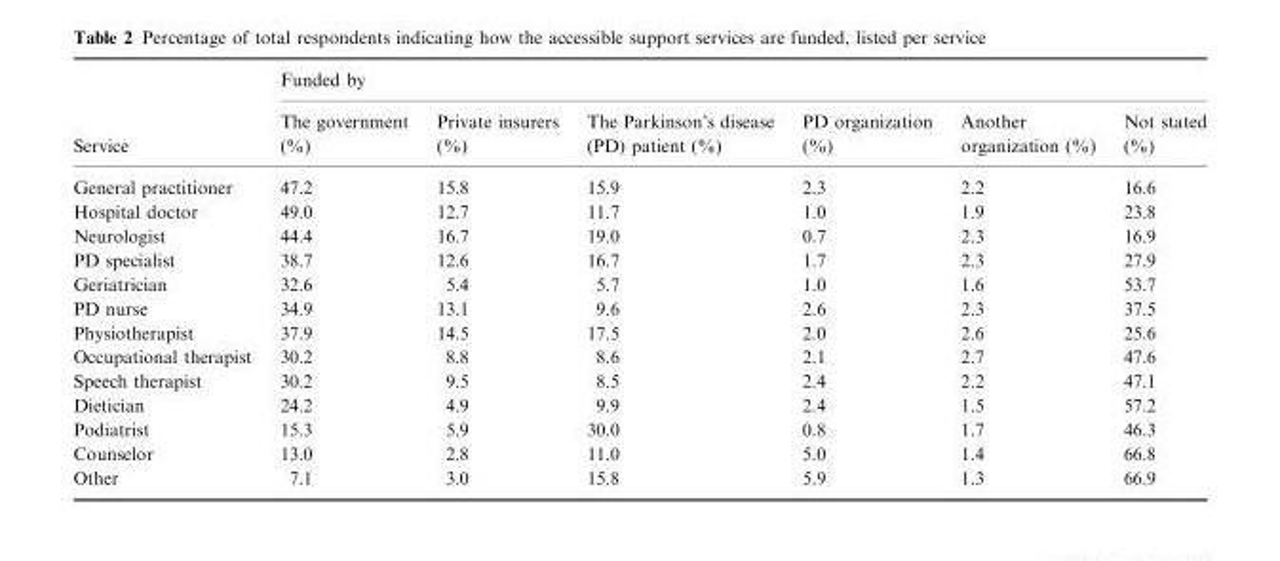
<table><thead><tr><td rowspan="2">Service</td><td colspan="6">Funded by</td></tr><tr><td>The government (%)</td><td>Private insurers (%)</td><td>The Parkinson’s disease (PD) patient (%)</td><td>PD organization (%)</td><td>Another organization (%)</td><td>Not stated (%)</td></tr></thead><tbody><tr><td>General practitioner</td><td>47.2</td><td>15.8</td><td>15.9</td><td>2.3</td><td>2.2</td><td>16.6</td></tr><tr><td>Hospital doctor</td><td>49.0</td><td>12.7</td><td>11.7</td><td>1.0</td><td>1.9</td><td>23.8</td></tr><tr><td>Neurologist</td><td>44.4</td><td>16.7</td><td>19.0</td><td>0.7</td><td>2.3</td><td>16.9</td></tr><tr><td>PD specialist</td><td>38.7</td><td>12.6</td><td>16.7</td><td>1.7</td><td>2.3</td><td>27.9</td></tr><tr><td>Geriatrician</td><td>32.6</td><td>5.4</td><td>5.7</td><td>1.0</td><td>1.6</td><td>53.7</td></tr><tr><td>PD nurse</td><td>34.9</td><td>13.1</td><td>9.6</td><td>2.6</td><td>2.3</td><td>37.5</td></tr><tr><td>Physiotherapist</td><td>37.9</td><td>14.5</td><td>17.5</td><td>2.0</td><td>2.6</td><td>25.6</td></tr><tr><td>Occupational therapist</td><td>30.2</td><td>8.8</td><td>8.6</td><td>2.1</td><td>2.7</td><td>47.6</td></tr><tr><td>Speech therapist</td><td>30.2</td><td>9.5</td><td>8.5</td><td>2.4</td><td>2.2</td><td>47.1</td></tr><tr><td>Dietician</td><td>24.2</td><td>4.9</td><td>9.9</td><td>2.4</td><td>1.5</td><td>57.2</td></tr><tr><td>Podiatrist</td><td>15.3</td><td>5.9</td><td>30.0</td><td>0.8</td><td>1.7</td><td>46.3</td></tr><tr><td>Counselor</td><td>13.0</td><td>2.8</td><td>11.0</td><td>5.0</td><td>1.4</td><td>66.8</td></tr><tr><td>Other</td><td>7.1</td><td>3.0</td><td>15.8</td><td>5.9</td><td>1.3</td><td>66.9</td></tr></tbody></table>